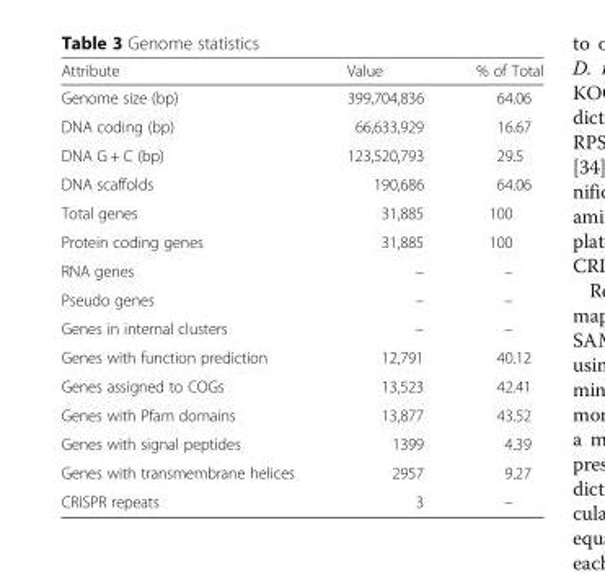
<table><thead><tr><td>Attribute</td><td>Value</td><td>% of Total</td></tr></thead><tbody><tr><td>Genome size (bp)</td><td>399,704,836</td><td>64.06</td></tr><tr><td>DNA coding (bp)</td><td>66,633,929</td><td>16.67</td></tr><tr><td>DNA G + C (bp)</td><td>123,520,793</td><td>29.5</td></tr><tr><td>DNA scaffolds</td><td>190,686</td><td>64.06</td></tr><tr><td>Total genes</td><td>31,885</td><td>100</td></tr><tr><td>Protein coding genes</td><td>31,885</td><td>100</td></tr><tr><td>RNA genes</td><td>–</td><td>–</td></tr><tr><td>Pseudo genes</td><td>–</td><td>–</td></tr><tr><td>Genes in internal clusters</td><td>–</td><td>–</td></tr><tr><td>Genes with function prediction</td><td>12,791</td><td>40.12</td></tr><tr><td>Genes assigned to COGs</td><td>13,523</td><td>42.41</td></tr><tr><td>Genes with Pfam domains</td><td>13,877</td><td>43.52</td></tr><tr><td>Genes with signal peptides</td><td>1399</td><td>4.39</td></tr><tr><td>Genes with transmembrane helices</td><td>2957</td><td>9.27</td></tr><tr><td>CRISPR repeats</td><td>3</td><td>–</td></tr></tbody></table>